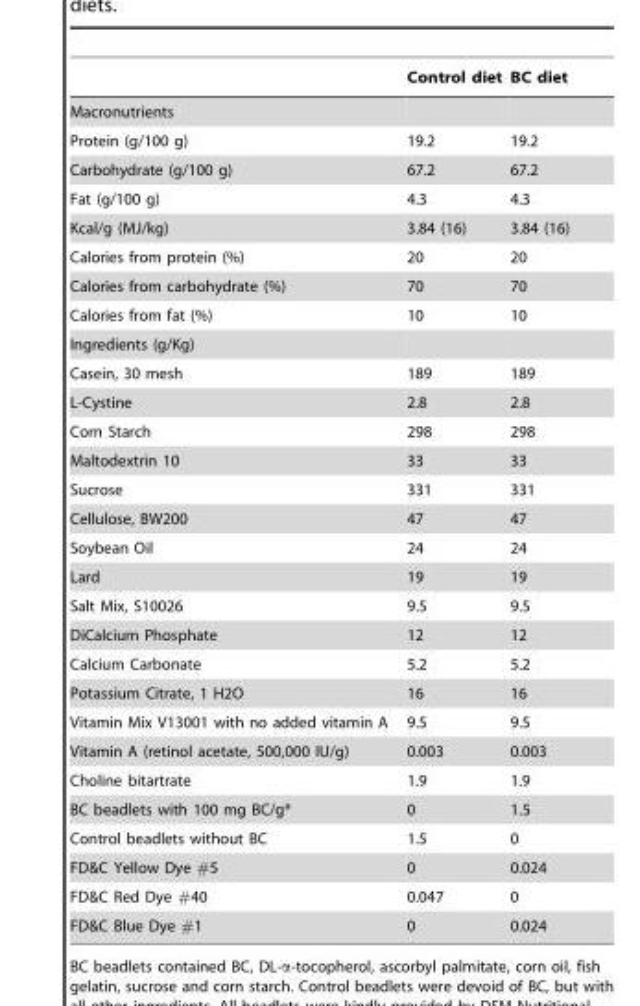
<table><thead><tr><td></td><td>Control diet</td><td>BC diet</td></tr></thead><tbody><tr><td colspan="3">Macronutrients</td></tr><tr><td>Protein (g/100 g)</td><td>19.2</td><td>19.2</td></tr><tr><td>Carbohydrate (g/100 g)</td><td>67.2</td><td>67.2</td></tr><tr><td>Fat (g/100 g)</td><td>4.3</td><td>4.3</td></tr><tr><td>Kcal/g (MJ/kg)</td><td>3.84 (16)</td><td>3.84 (16)</td></tr><tr><td>Calories from protein (%)</td><td>20</td><td>20</td></tr><tr><td>Calories from carbohydrate (%)</td><td>70</td><td>70</td></tr><tr><td>Calories from fat (%)</td><td>10</td><td>10</td></tr><tr><td colspan="3">Ingredients (g/Kg)</td></tr><tr><td>Casein, 30 mesh</td><td>189</td><td>189</td></tr><tr><td>L-Cystine</td><td>2.8</td><td>2.8</td></tr><tr><td>Corn Starch</td><td>298</td><td>298</td></tr><tr><td>Maltodextrin 10</td><td>33</td><td>33</td></tr><tr><td>Sucrose</td><td>331</td><td>331</td></tr><tr><td>Cellulose, BW200</td><td>47</td><td>47</td></tr><tr><td>Soybean Oil</td><td>24</td><td>24</td></tr><tr><td>Lard</td><td>19</td><td>19</td></tr><tr><td>Salt Mix, S10026</td><td>9.5</td><td>9.5</td></tr><tr><td>DiCalcium Phosphate</td><td>12</td><td>12</td></tr><tr><td>Calcium Carbonate</td><td>5.2</td><td>5.2</td></tr><tr><td>Potassium Citrate, 1 H2O</td><td>16</td><td>16</td></tr><tr><td>Vitamin Mix V13001 with no added vitamin A</td><td>9.5</td><td>9.5</td></tr><tr><td>Vitamin A (retinol acetate, 500,000 IU/g)</td><td>0.003</td><td>0.003</td></tr><tr><td>Choline bitartrate</td><td>1.9</td><td>1.9</td></tr><tr><td>BC beadlets with 100 mg BC/g*</td><td>0</td><td>1.5</td></tr><tr><td>Control beadlets without BC</td><td>1.5</td><td>0</td></tr><tr><td>FD&amp;C Yellow Dye #5</td><td>0</td><td>0.024</td></tr><tr><td>FD&amp;C Red Dye #40</td><td>0.047</td><td>0</td></tr><tr><td>FD&amp;C Blue Dye #1</td><td>0</td><td>0.024</td></tr></tbody></table>